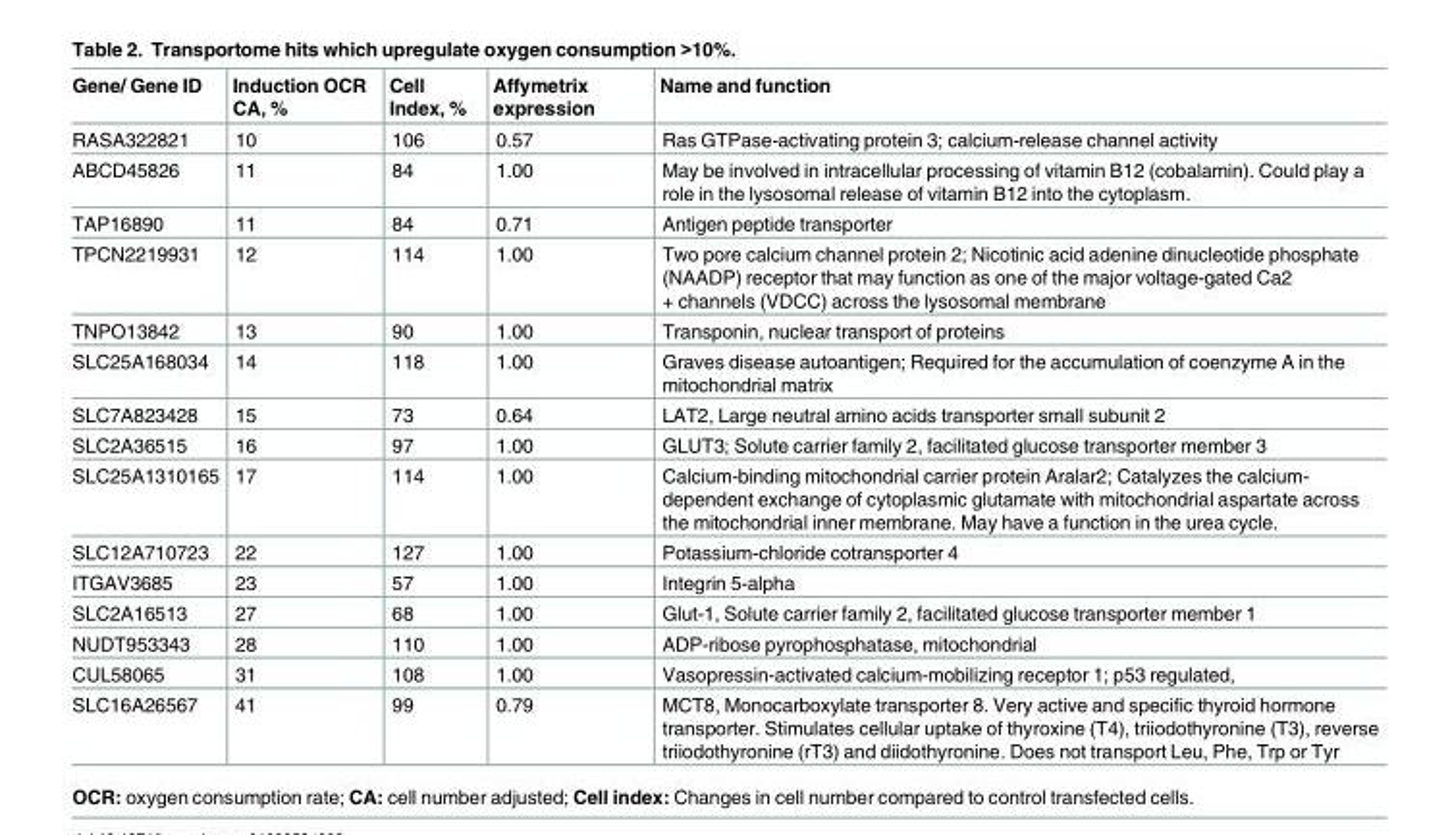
<table><thead><tr><td>Gene/ Gene ID</td><td>Induction OCR CA, %</td><td>Cell Index, %</td><td>Affymetrix expression</td><td>Name and function</td></tr></thead><tbody><tr><td>RASA322821</td><td>10</td><td>106</td><td>0.57</td><td>Ras GTPase-activating protein 3; calcium-release channel activity</td></tr><tr><td>ABCD45826</td><td>11</td><td>84</td><td>1.00</td><td>May be involved in intracellular processing of vitamin B12 (cobalamin). Could play a role in the lysosomal release of vitamin B12 into the cytoplasm.</td></tr><tr><td>TAP16890</td><td>11</td><td>84</td><td>0.71</td><td>Antigen peptide transporter</td></tr><tr><td>TPCN2219931</td><td>12</td><td>114</td><td>1.00</td><td>Two pore calcium channel protein 2; Nicotinic acid adenine dinucleotide phosphate (NAADP) receptor that may function as one of the major voltage-gated Ca2 + channels (VDCC) across the lysosomal membrane</td></tr><tr><td>TNPO13842</td><td>13</td><td>90</td><td>1.00</td><td>Transponin, nuclear transport of proteins</td></tr><tr><td>SLC25A168034</td><td>14</td><td>118</td><td>1.00</td><td>Graves disease autoantigen; Required for the accumulation of coenzyme A in the mitochondrial matrix</td></tr><tr><td>SLC7A823428</td><td>15</td><td>73</td><td>0.64</td><td>LAT2, Large neutral amino acids transporter small subunit 2</td></tr><tr><td>SLC2A36515</td><td>16</td><td>97</td><td>1.00</td><td>GLUT3; Solute carrier family 2, facilitated glucose transporter member 3</td></tr><tr><td>SLC25A1310165</td><td>17</td><td>114</td><td>1.00</td><td>Calcium-binding mitochondrial carrier protein Aralar2; Catalyzes the calcium- dependent exchange of cytoplasmic glutamate with mitochondrial aspartate across the mitochondrial inner membrane. May have a function in the urea cycle.</td></tr><tr><td>SLC12A710723</td><td>22</td><td>127</td><td>1.00</td><td>Potassium-chloride cotransporter 4</td></tr><tr><td>ITGAV3685</td><td>23</td><td>57</td><td>1.00</td><td>Integrin 5-alpha</td></tr><tr><td>SLC2A16513</td><td>27</td><td>68</td><td>1.00</td><td>Glut-1, Solute carrier family 2, facilitated glucose transporter member 1</td></tr><tr><td>NUDT953343</td><td>28</td><td>110</td><td>1.00</td><td>ADP-ribose pyrophosphatase, mitochondrial</td></tr><tr><td>CUL58065</td><td>31</td><td>108</td><td>1.00</td><td>Vasopressin-activated calcium-mobilizing receptor 1; p53 regulated,</td></tr><tr><td>SLC16A26567</td><td>41</td><td>99</td><td>0.79</td><td>MCT8, Monocarboxylate transporter 8. Very active and specific thyroid hormone transporter. Stimulates cellular uptake of thyroxine (T4), triiodothyronine (T3), reverse triiodothyronine (rT3) and diidothyronine. Does not transport Leu, Phe, Trp or Tyr</td></tr></tbody></table>